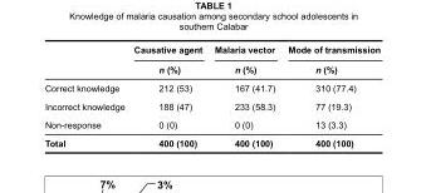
<table><thead><tr><td rowspan="2"></td><td rowspan="2">Causative agent n (%)</td><td rowspan="2">Malaria vector n (%)</td><td rowspan="2">Mode of transmission n (%)</td></tr><tr></tr></thead><tbody><tr><td>Correct knowledge</td><td>212 (53)</td><td>167 (41.7)</td><td>310 (77.4)</td></tr><tr><td>Incorrect knowledge</td><td>188 (47)</td><td>233 (58.3)</td><td>77 (19.3)</td></tr><tr><td>Non-response</td><td>0 (0)</td><td>0 (0)</td><td>13 (3.3)</td></tr><tr><td>Total</td><td>400 (100)</td><td>400 (100)</td><td>400 (100)</td></tr></tbody></table>